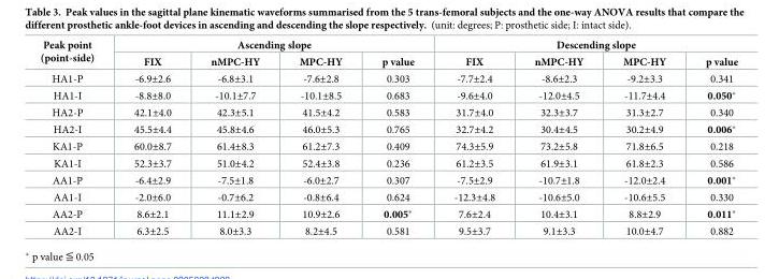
<table><thead><tr><td rowspan="2">Peak point (point-side)</td><td colspan="4">Ascending slope</td><td colspan="4">Descending slope</td></tr><tr><td>FIX</td><td>nMPC-HY</td><td>MPC-HY</td><td>p value</td><td>FIX</td><td>nMPC-HY</td><td>MPC-HY</td><td>p value</td></tr></thead><tbody><tr><td>HA1-P</td><td>-6.9±2.6</td><td>-6.8±3.1</td><td>-7.6±2.8</td><td>0.303</td><td>-7.7±2.4</td><td>-8.6±2.3</td><td>-9.2±3.3</td><td>0.341</td></tr><tr><td>HA1-I</td><td>-8.8±8.0</td><td>-10.1±7.7</td><td>-10.1±8.5</td><td>0.683</td><td>-9.6±4.0</td><td>-12.0±4.5</td><td>-11.7±4.4</td><td>0.050*</td></tr><tr><td>HA2-P</td><td>42.1±4.0</td><td>42.3±5.1</td><td>41.5±4.2</td><td>0.583</td><td>31.7±4.0</td><td>32.3±3.7</td><td>31.3±2.7</td><td>0.340</td></tr><tr><td>HA2-I</td><td>45.5±4.4</td><td>45.8±4.6</td><td>46.0±5.3</td><td>0.765</td><td>32.7±4.2</td><td>30.4±4.5</td><td>30.2±4.9</td><td>0.006*</td></tr><tr><td>KA1-P</td><td>60.0±8.7</td><td>61.4±8.3</td><td>61.2±7.3</td><td>0.409</td><td>74.3±5.9</td><td>73.2±5.8</td><td>71.8±6.5</td><td>0.218</td></tr><tr><td>KA1-I</td><td>52.3±3.7</td><td>51.0±4.2</td><td>52.4±3.8</td><td>0.236</td><td>61.2±3.5</td><td>61.9±3.1</td><td>61.8±2.3</td><td>0.586</td></tr><tr><td>AA1-P</td><td>-6.4±2.9</td><td>-7.5±1.8</td><td>-6.0±2.7</td><td>0.307</td><td>-7.5±2.9</td><td>-10.7±1.8</td><td>-12.0±2.4</td><td>0.001*</td></tr><tr><td>AA1-I</td><td>-2.0±6.0</td><td>-0.7±6.2</td><td>-0.8±6.4</td><td>0.624</td><td>-12.3±4.8</td><td>-10.6±5.0</td><td>-10.6±5.5</td><td>0.330</td></tr><tr><td>AA2-P</td><td>8.6±2.1</td><td>11.1±2.9</td><td>10.9±2.6</td><td>0.005*</td><td>7.6±2.4</td><td>10.4±3.1</td><td>8.8±2.9</td><td>0.011*</td></tr><tr><td>AA2-I</td><td>6.3±2.5</td><td>8.0±3.3</td><td>8.2±4.5</td><td>0.581</td><td>9.5±3.7</td><td>9.1±3.3</td><td>10.0±4.7</td><td>0.882</td></tr></tbody></table>